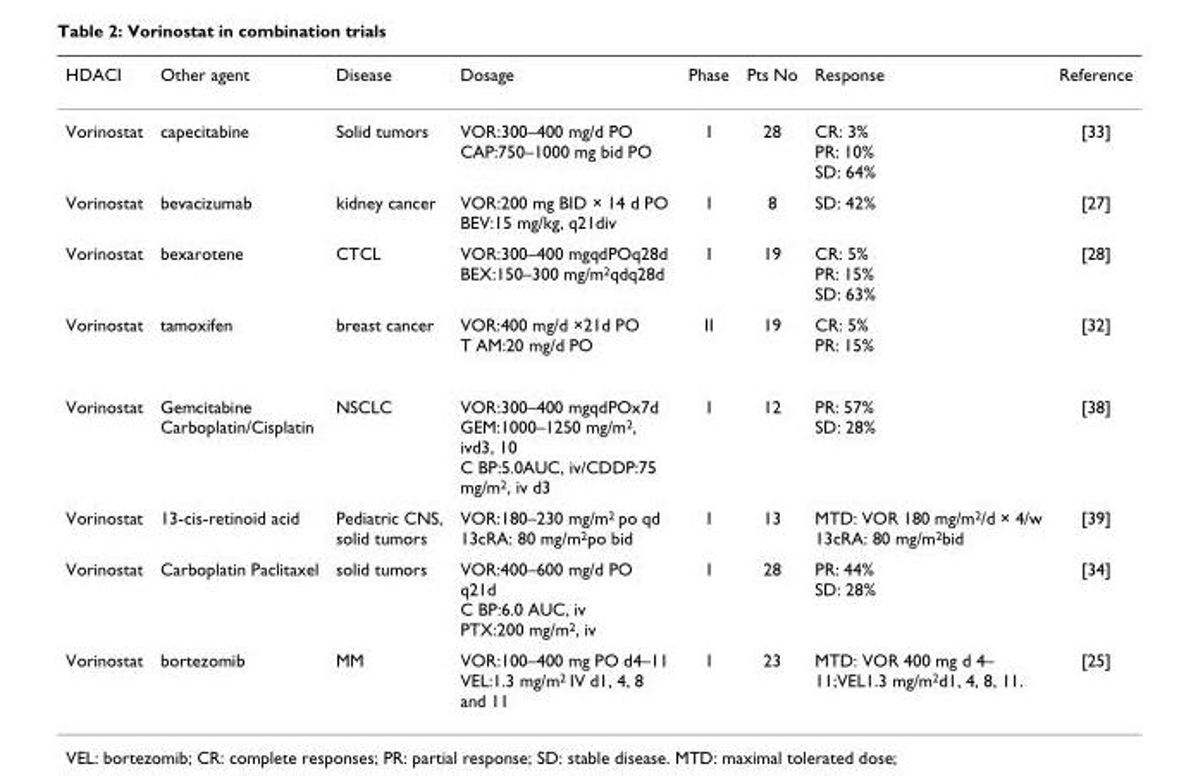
<table><thead><tr><td>HDACI</td><td>Other agent</td><td>Disease</td><td>Dosage</td><td>Phase</td><td>Pts No</td><td>Response</td><td>Reference</td></tr></thead><tbody><tr><td>Vorinostat</td><td>capecitabine</td><td>Solid tumors</td><td>VOR:300–400 mg/d PO CAP:750–1000 mg bid PO</td><td>I</td><td>28</td><td>CR: 3% PR: 10% SD: 64%</td><td>[33]</td></tr><tr><td>Vorinostat</td><td>bevacizumab</td><td>kidney cancer</td><td>VOR:200 mg BID × 14 d PO BEV:15 mg/kg, q21div</td><td>I</td><td>8</td><td>SD: 42%</td><td>[27]</td></tr><tr><td>Vorinostat</td><td>bexarotene</td><td>CTCL</td><td>VOR:300–400 mgqdPOq28d BEX:150–300 mg/m<sup>2</sup>qdq28d</td><td>I</td><td>19</td><td>CR: 5% PR: 15% SD: 63%</td><td>[28]</td></tr><tr><td>Vorinostat</td><td>tamoxifen</td><td>breast cancer</td><td>VOR:400 mg/d ×21d PO T AM:20 mg/d PO</td><td>II</td><td>19</td><td>CR: 5% PR: 15%</td><td>[32]</td></tr><tr><td>Vorinostat</td><td>Gemcitabine Carboplatin/Cisplatin</td><td>NSCLC</td><td>VOR:300–400 mgqdPOx7d GEM:1000–1250 mg/m<sup>2</sup>, ivd3, 10 C BP:5.0AUC, iv/CDDP:75 mg/m<sup>2</sup>, iv d3</td><td>I</td><td>12</td><td>PR: 57% SD: 28%</td><td>[38]</td></tr><tr><td>Vorinostat</td><td>13-cis-retinoid acid</td><td>Pediatric CNS, solid tumors</td><td>VOR:180–230 mg/m<sup>2</sup> po qd 13cRA: 80 mg/m<sup>2</sup>po bid</td><td>I</td><td>13</td><td>MTD: VOR 180 mg/m<sup>2</sup>/d × 4/w 13cRA: 80 mg/m<sup>2</sup>bid</td><td>[39]</td></tr><tr><td>Vorinostat</td><td>Carboplatin Paclitaxel</td><td>solid tumors</td><td>VOR:400–600 mg/d PO q21d C BP:6.0 AUC, iv PTX:200 mg/m<sup>2</sup>, iv</td><td>I</td><td>28</td><td>PR: 44% SD: 28%</td><td>[34]</td></tr><tr><td>Vorinostat</td><td>bortezomib</td><td>MM</td><td>VOR:100–400 mg PO d4–11 VEL:1.3 mg/m<sup>2</sup> IV d1, 4, 8 and 11</td><td>I</td><td>23</td><td>MTD: VOR 400 mg d 4– 11;VEL1.3 mg/m<sup>2</sup>d1, 4, 8, 11.</td><td>[25]</td></tr></tbody></table>